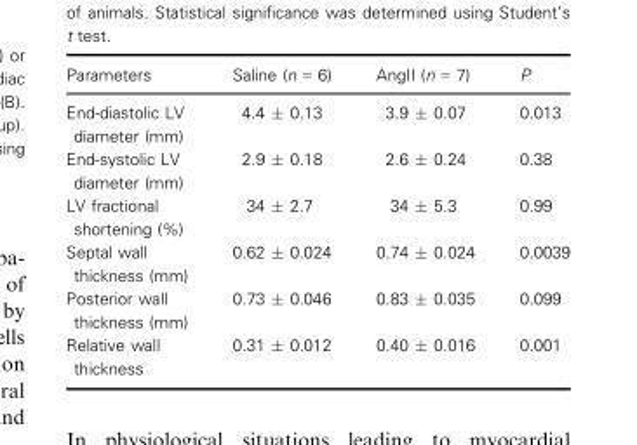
<table><thead><tr><td>Parameters</td><td>Saline (n = 6)</td><td>AngII (n = 7)</td><td>P</td></tr></thead><tbody><tr><td>End-diastolic LV diameter (mm)</td><td>4.4 ± 0.13</td><td>3.9 ± 0.07</td><td>0.013</td></tr><tr><td>End-systolic LV diameter (mm)</td><td>2.9 ± 0.18</td><td>2.6 ± 0.24</td><td>0.38</td></tr><tr><td>LV fractional shortening (%)</td><td>34 ± 2.7</td><td>34 ± 5.3</td><td>0.99</td></tr><tr><td>Septal wall thickness (mm)</td><td>0.62 ± 0.024</td><td>0.74 ± 0.024</td><td>0.0039</td></tr><tr><td>Posterior wall thickness (mm)</td><td>0.73 ± 0.046</td><td>0.83 ± 0.035</td><td>0.099</td></tr><tr><td>Relative wall thickness</td><td>0.31 ± 0.012</td><td>0.40 ± 0.016</td><td>0.001</td></tr></tbody></table>